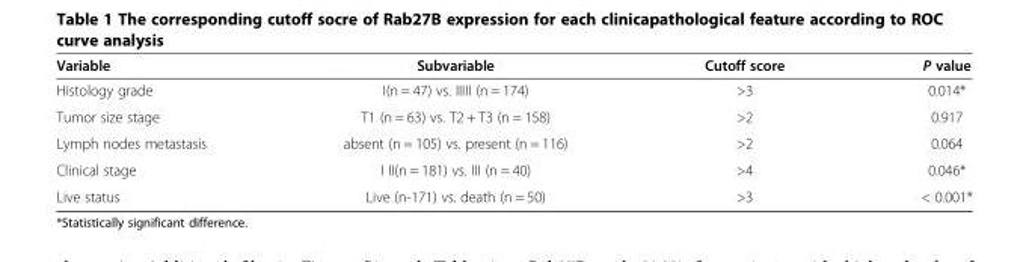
<table><thead><tr><td>Variable</td><td>Subvariable</td><td>Cutoff score</td><td>P value</td></tr></thead><tbody><tr><td>Histology grade</td><td>I(n = 47) vs. IIIII (n = 174)</td><td>&gt;3</td><td>0.014*</td></tr><tr><td>Tumor size stage</td><td>T1 (n = 63) vs. T2 + T3 (n = 158)</td><td>&gt;2</td><td>0.917</td></tr><tr><td>Lymph nodes metastasis</td><td>absent (n = 105) vs. present (n = 116)</td><td>&gt;2</td><td>0.064</td></tr><tr><td>Clinical stage</td><td>I II(n = 181) vs. III (n = 40)</td><td>&gt;4</td><td>0.046*</td></tr><tr><td>Live status</td><td>Live (n-171) vs. death (n = 50)</td><td>&gt;3</td><td>&lt; 0.001*</td></tr></tbody></table>